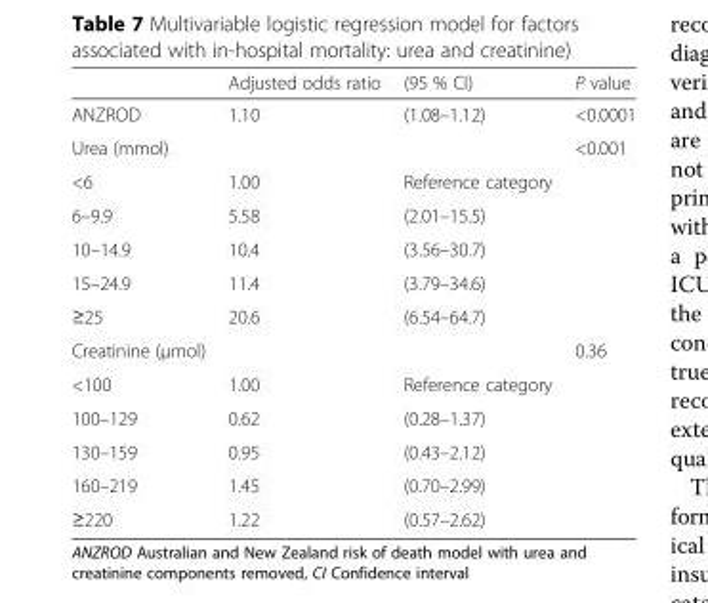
<table><thead><tr><td></td><td>Adjusted odds ratio</td><td>(95 % CI)</td><td>P value</td></tr></thead><tbody><tr><td>ANZROD</td><td>1.10</td><td>(1.08–1.12)</td><td>&lt;0.0001</td></tr><tr><td>Urea (mmol)</td><td></td><td></td><td>&lt;0.001</td></tr><tr><td>&lt;6</td><td>1.00</td><td>Reference category</td><td></td></tr><tr><td>6–9.9</td><td>5.58</td><td>(2.01–15.5)</td><td></td></tr><tr><td>10–14.9</td><td>10.4</td><td>(3.56–30.7)</td><td></td></tr><tr><td>15–24.9</td><td>11.4</td><td>(3.79–34.6)</td><td></td></tr><tr><td>≥25</td><td>20.6</td><td>(6.54–64.7)</td><td></td></tr><tr><td>Creatinine (μmol)</td><td></td><td></td><td>0.36</td></tr><tr><td>&lt;100</td><td>1.00</td><td>Reference category</td><td></td></tr><tr><td>100–129</td><td>0.62</td><td>(0.28–1.37)</td><td></td></tr><tr><td>130–159</td><td>0.95</td><td>(0.43–2.12)</td><td></td></tr><tr><td>160–219</td><td>1.45</td><td>(0.70–2.99)</td><td></td></tr><tr><td>≥220</td><td>1.22</td><td>(0.57–2.62)</td><td></td></tr></tbody></table>